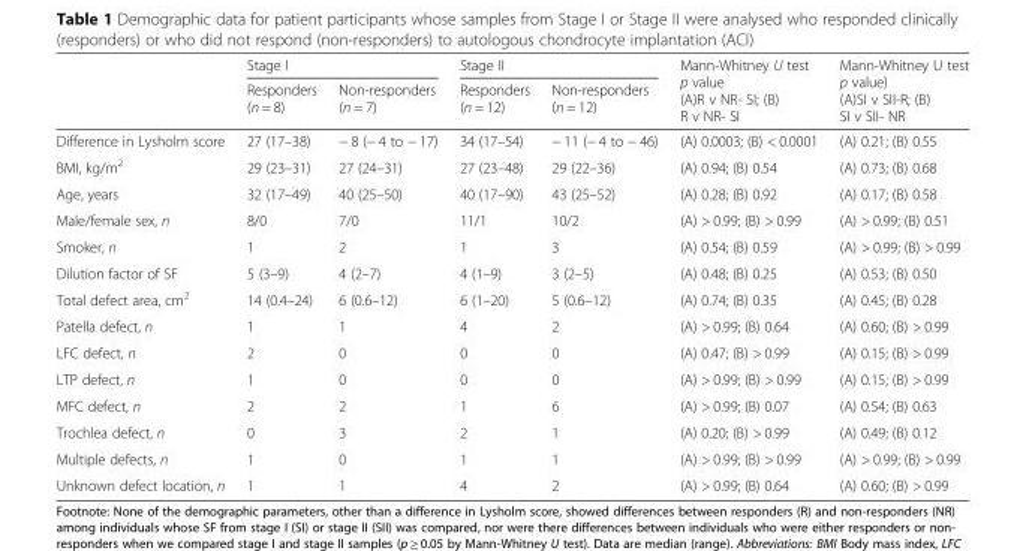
<table><thead><tr><td rowspan="2"></td><td colspan="2">Stage I</td><td colspan="2">Stage II</td><td rowspan="2">Mann-Whitney U test p value (A)R v NR- SI; (B) R v NR- SI</td><td rowspan="2">Mann-Whitney U test p value) (A)SI v SII-R; (B) SI v SII- NR</td></tr><tr><td>Responders (n = 8)</td><td>Non-responders (n = 7)</td><td>Responders (n = 12)</td><td>Non-responders (n = 12)</td></tr></thead><tbody><tr><td>Difference in Lysholm score</td><td>27 (17–38)</td><td>− 8 (− 4 to − 17)</td><td>34 (17–54)</td><td>− 11 (− 4 to − 46)</td><td>(A) 0.0003; (B) &lt; 0.0001</td><td>(A) 0.21; (B) 0.55</td></tr><tr><td>BMI, kg/m<sup>2</sup></td><td>29 (23–31)</td><td>27 (24–31)</td><td>27 (23–48)</td><td>29 (22–36)</td><td>(A) 0.94; (B) 0.54</td><td>(A) 0.73; (B) 0.68</td></tr><tr><td>Age, years</td><td>32 (17–49)</td><td>40 (25–50)</td><td>40 (17–90)</td><td>43 (25–52)</td><td>(A) 0.28; (B) 0.92</td><td>(A) 0.17; (B) 0.58</td></tr><tr><td>Male/female sex, n</td><td>8/0</td><td>7/0</td><td>11/1</td><td>10/2</td><td>(A) &gt; 0.99; (B) &gt; 0.99</td><td>(A) &gt; 0.99; (B) 0.51</td></tr><tr><td>Smoker, n</td><td>1</td><td>2</td><td>1</td><td>3</td><td>(A) 0.54; (B) 0.59</td><td>(A) &gt; 0.99; (B) &gt; 0.99</td></tr><tr><td>Dilution factor of SF</td><td>5 (3–9)</td><td>4 (2–7)</td><td>4 (1–9)</td><td>3 (2–5)</td><td>(A) 0.48; (B) 0.25</td><td>(A) 0.53; (B) 0.50</td></tr><tr><td>Total defect area, cm<sup>2</sup></td><td>14 (0.4–24)</td><td>6 (0.6–12)</td><td>6 (1–20)</td><td>5 (0.6–12)</td><td>(A) 0.74; (B) 0.35</td><td>(A) 0.45; (B) 0.28</td></tr><tr><td>Patella defect, n</td><td>1</td><td>1</td><td>4</td><td>2</td><td>(A) &gt; 0.99; (B) 0.64</td><td>(A) 0.60; (B) &gt; 0.99</td></tr><tr><td>LFC defect, n</td><td>2</td><td>0</td><td>0</td><td>0</td><td>(A) 0.47; (B) &gt; 0.99</td><td>(A) 0.15; (B) &gt; 0.99</td></tr><tr><td>LTP defect, n</td><td>1</td><td>0</td><td>0</td><td>0</td><td>(A) &gt; 0.99; (B) &gt; 0.99</td><td>(A) 0.15; (B) &gt; 0.99</td></tr><tr><td>MFC defect, n</td><td>2</td><td>2</td><td>1</td><td>6</td><td>(A) &gt; 0.99; (B) 0.07</td><td>(A) 0.54; (B) 0.63</td></tr><tr><td>Trochlea defect, n</td><td>0</td><td>3</td><td>2</td><td>1</td><td>(A) 0.20; (B) &gt; 0.99</td><td>(A) 0.49; (B) 0.12</td></tr><tr><td>Multiple defects, n</td><td>1</td><td>0</td><td>1</td><td>1</td><td>(A) &gt; 0.99; (B) &gt; 0.99</td><td>(A) &gt; 0.99; (B) &gt; 0.99</td></tr><tr><td>Unknown defect location, n</td><td>1</td><td>1</td><td>4</td><td>2</td><td>(A) &gt; 0.99; (B) 0.64</td><td>(A) 0.60; (B) &gt; 0.99</td></tr></tbody></table>